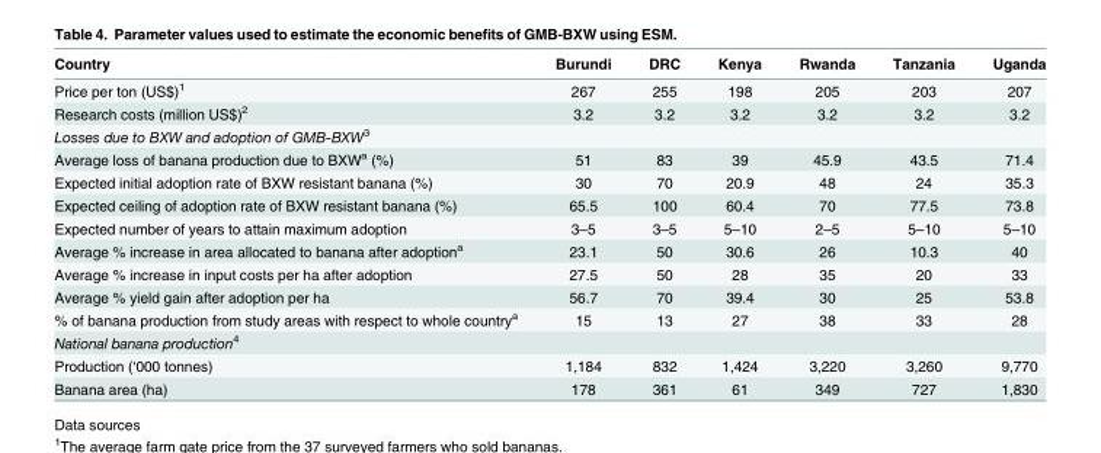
<table><thead><tr><td>Country</td><td>Burundi</td><td>DRC</td><td>Kenya</td><td>Rwanda</td><td>Tanzania</td><td>Uganda</td></tr></thead><tbody><tr><td>Price per ton (US$)<sup>1</sup></td><td>267</td><td>255</td><td>198</td><td>205</td><td>203</td><td>207</td></tr><tr><td>Research costs (million US$)<sup>2</sup></td><td>3.2</td><td>3.2</td><td>3.2</td><td>3.2</td><td>3.2</td><td>3.2</td></tr><tr><td colspan="7">Losses due to BXW and adoption of GMB-BXW<sup>3</sup></td></tr><tr><td>Average loss of banana production due to BXW<sup>a</sup> (%)</td><td>51</td><td>83</td><td>39</td><td>45.9</td><td>43.5</td><td>71.4</td></tr><tr><td>Expected initial adoption rate of BXW resistant banana (%)</td><td>30</td><td>70</td><td>20.9</td><td>48</td><td>24</td><td>35.3</td></tr><tr><td>Expected ceiling of adoption rate of BXW resistant banana (%)</td><td>65.5</td><td>100</td><td>60.4</td><td>70</td><td>77.5</td><td>73.8</td></tr><tr><td>Expected number of years to attain maximum adoption</td><td>3–5</td><td>3–5</td><td>5–10</td><td>2–5</td><td>5–10</td><td>5–10</td></tr><tr><td>Average % increase in area allocated to banana after adoption<sup>a</sup></td><td>23.1</td><td>50</td><td>30.6</td><td>26</td><td>10.3</td><td>40</td></tr><tr><td>Average % increase in input costs per ha after adoption</td><td>27.5</td><td>50</td><td>28</td><td>35</td><td>20</td><td>33</td></tr><tr><td>Average % yield gain after adoption per ha</td><td>56.7</td><td>70</td><td>39.4</td><td>30</td><td>25</td><td>53.8</td></tr><tr><td>% of banana production from study areas with respect to whole country<sup>a</sup></td><td>15</td><td>13</td><td>27</td><td>38</td><td>33</td><td>28</td></tr><tr><td colspan="7">National banana production<sup>4</sup></td></tr><tr><td>Production (‘000 tonnes)</td><td>1,184</td><td>832</td><td>1,424</td><td>3,220</td><td>3,260</td><td>9,770</td></tr><tr><td>Banana area (ha)</td><td>178</td><td>361</td><td>61</td><td>349</td><td>727</td><td>1,830</td></tr></tbody></table>